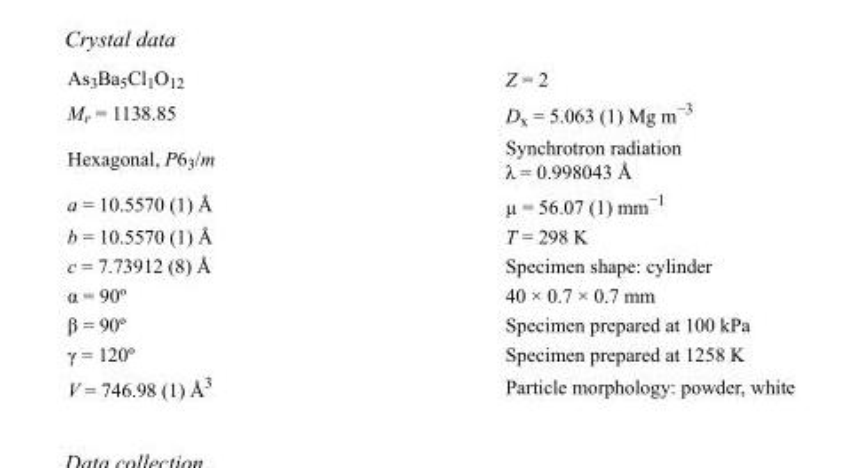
<table><tbody><tr><td>As<sub>3</sub>Ba<sub>5</sub>Cl<sub>1</sub>O<sub>12</sub></td><td>Z = 2</td></tr><tr><td>M<sub>r</sub> = 1138.85</td><td>D<sub>x</sub> = 5.063 (1) Mg m<sup>−3</sup></td></tr><tr><td>Hexagonal, P6<sub>3</sub>/m</td><td>Synchrotron radiation λ = 0.998043 Å</td></tr><tr><td>a = 10.5570 (1) Å</td><td>µ = 56.07 (1) mm<sup>−1</sup></td></tr><tr><td>b = 10.5570 (1) Å</td><td>T = 298 K</td></tr><tr><td>c = 7.73912 (8) Å</td><td>Specimen shape: cylinder</td></tr><tr><td>α = 90º</td><td>40 × 0.7 × 0.7 mm</td></tr><tr><td>β = 90º</td><td>Specimen prepared at 100 kPa</td></tr><tr><td>γ = 120º</td><td>Specimen prepared at 1258 K</td></tr><tr><td>V = 746.98 (1) Å<sup>3</sup></td><td>Particle morphology: powder, white</td></tr></tbody></table>